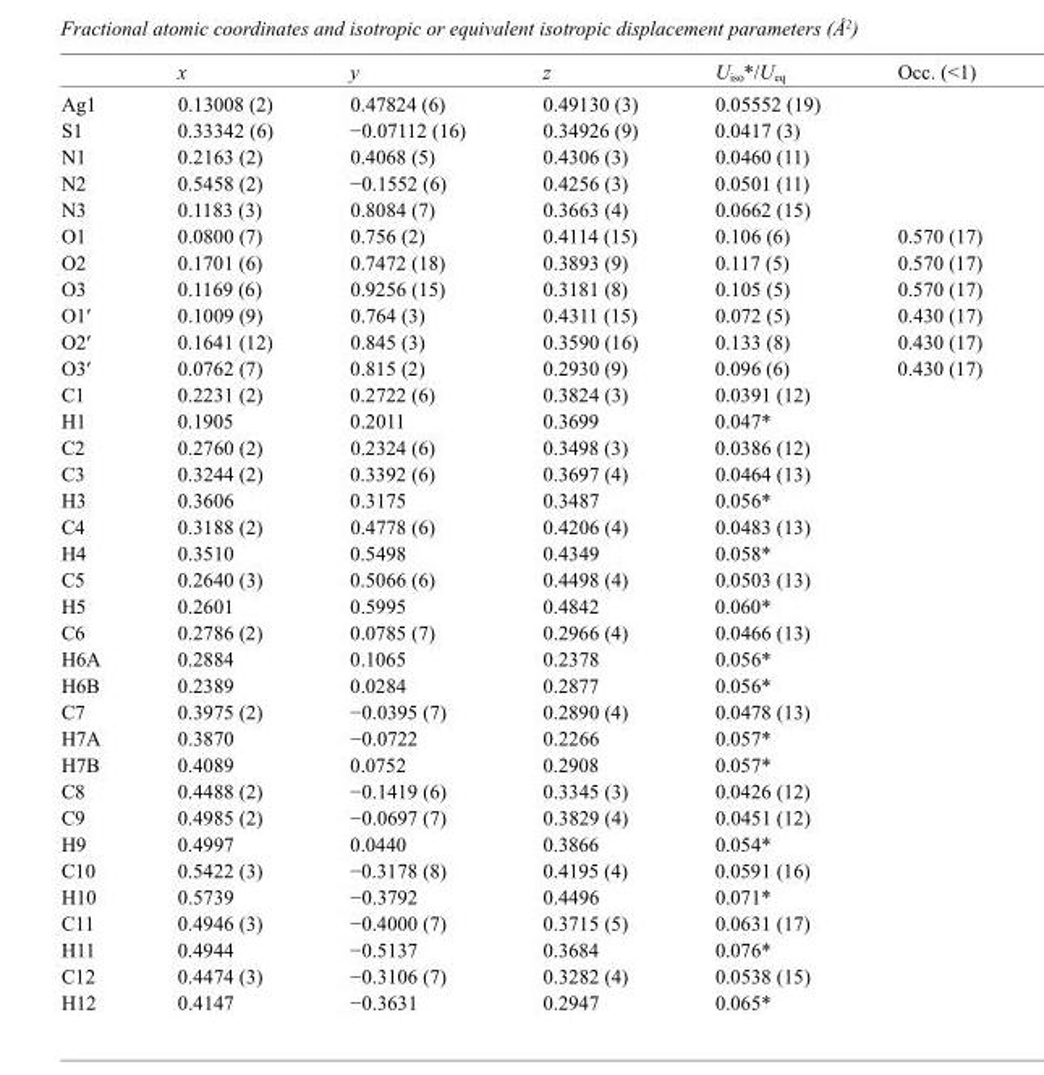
<table><thead><tr><td></td><td>x</td><td>y</td><td>z</td><td>U<sub>iso</sub>*/U<sub>eq</sub></td><td>Occ. (&lt;1)</td></tr></thead><tbody><tr><td>Ag1</td><td>0.13008 (2)</td><td>0.47824 (6)</td><td>0.49130 (3)</td><td>0.05552 (19)</td><td></td></tr><tr><td>S1</td><td>0.33342 (6)</td><td>−0.07112 (16)</td><td>0.34926 (9)</td><td>0.0417 (3)</td><td></td></tr><tr><td>N1</td><td>0.2163 (2)</td><td>0.4068 (5)</td><td>0.4306 (3)</td><td>0.0460 (11)</td><td></td></tr><tr><td>N2</td><td>0.5458 (2)</td><td>−0.1552 (6)</td><td>0.4256 (3)</td><td>0.0501 (11)</td><td></td></tr><tr><td>N3</td><td>0.1183 (3)</td><td>0.8084 (7)</td><td>0.3663 (4)</td><td>0.0662 (15)</td><td></td></tr><tr><td>O1</td><td>0.0800 (7)</td><td>0.756 (2)</td><td>0.4114 (15)</td><td>0.106 (6)</td><td>0.570 (17)</td></tr><tr><td>O2</td><td>0.1701 (6)</td><td>0.7472 (18)</td><td>0.3893 (9)</td><td>0.117 (5)</td><td>0.570 (17)</td></tr><tr><td>O3</td><td>0.1169 (6)</td><td>0.9256 (15)</td><td>0.3181 (8)</td><td>0.105 (5)</td><td>0.570 (17)</td></tr><tr><td>O1′</td><td>0.1009 (9)</td><td>0.764 (3)</td><td>0.4311 (15)</td><td>0.072 (5)</td><td>0.430 (17)</td></tr><tr><td>O2′</td><td>0.1641 (12)</td><td>0.845 (3)</td><td>0.3590 (16)</td><td>0.133 (8)</td><td>0.430 (17)</td></tr><tr><td>O3′</td><td>0.0762 (7)</td><td>0.815 (2)</td><td>0.2930 (9)</td><td>0.096 (6)</td><td>0.430 (17)</td></tr><tr><td>C1</td><td>0.2231 (2)</td><td>0.2722 (6)</td><td>0.3824 (3)</td><td>0.0391 (12)</td><td></td></tr><tr><td>H1</td><td>0.1905</td><td>0.2011</td><td>0.3699</td><td>0.047*</td><td></td></tr><tr><td>C2</td><td>0.2760 (2)</td><td>0.2324 (6)</td><td>0.3498 (3)</td><td>0.0386 (12)</td><td></td></tr><tr><td>C3</td><td>0.3244 (2)</td><td>0.3392 (6)</td><td>0.3697 (4)</td><td>0.0464 (13)</td><td></td></tr><tr><td>H3</td><td>0.3606</td><td>0.3175</td><td>0.3487</td><td>0.056*</td><td></td></tr><tr><td>C4</td><td>0.3188 (2)</td><td>0.4778 (6)</td><td>0.4206 (4)</td><td>0.0483 (13)</td><td></td></tr><tr><td>H4</td><td>0.3510</td><td>0.5498</td><td>0.4349</td><td>0.058*</td><td></td></tr><tr><td>C5</td><td>0.2640 (3)</td><td>0.5066 (6)</td><td>0.4498 (4)</td><td>0.0503 (13)</td><td></td></tr><tr><td>H5</td><td>0.2601</td><td>0.5995</td><td>0.4842</td><td>0.060*</td><td></td></tr><tr><td>C6</td><td>0.2786 (2)</td><td>0.0785 (7)</td><td>0.2966 (4)</td><td>0.0466 (13)</td><td></td></tr><tr><td>H6A</td><td>0.2884</td><td>0.1065</td><td>0.2378</td><td>0.056*</td><td></td></tr><tr><td>H6B</td><td>0.2389</td><td>0.0284</td><td>0.2877</td><td>0.056*</td><td></td></tr><tr><td>C7</td><td>0.3975 (2)</td><td>−0.0395 (7)</td><td>0.2890 (4)</td><td>0.0478 (13)</td><td></td></tr><tr><td>H7A</td><td>0.3870</td><td>−0.0722</td><td>0.2266</td><td>0.057*</td><td></td></tr><tr><td>H7B</td><td>0.4089</td><td>0.0752</td><td>0.2908</td><td>0.057*</td><td></td></tr><tr><td>C8</td><td>0.4488 (2)</td><td>−0.1419 (6)</td><td>0.3345 (3)</td><td>0.0426 (12)</td><td></td></tr><tr><td>C9</td><td>0.4985 (2)</td><td>−0.0697 (7)</td><td>0.3829 (4)</td><td>0.0451 (12)</td><td></td></tr><tr><td>H9</td><td>0.4997</td><td>0.0440</td><td>0.3866</td><td>0.054*</td><td></td></tr><tr><td>C10</td><td>0.5422 (3)</td><td>−0.3178 (8)</td><td>0.4195 (4)</td><td>0.0591 (16)</td><td></td></tr><tr><td>H10</td><td>0.5739</td><td>−0.3792</td><td>0.4496</td><td>0.071*</td><td></td></tr><tr><td>C11</td><td>0.4946 (3)</td><td>−0.4000 (7)</td><td>0.3715 (5)</td><td>0.0631 (17)</td><td></td></tr><tr><td>H11</td><td>0.4944</td><td>−0.5137</td><td>0.3684</td><td>0.076*</td><td></td></tr><tr><td>C12</td><td>0.4474 (3)</td><td>−0.3106 (7)</td><td>0.3282 (4)</td><td>0.0538 (15)</td><td></td></tr><tr><td>H12</td><td>0.4147</td><td>−0.3631</td><td>0.2947</td><td>0.065*</td><td></td></tr></tbody></table>